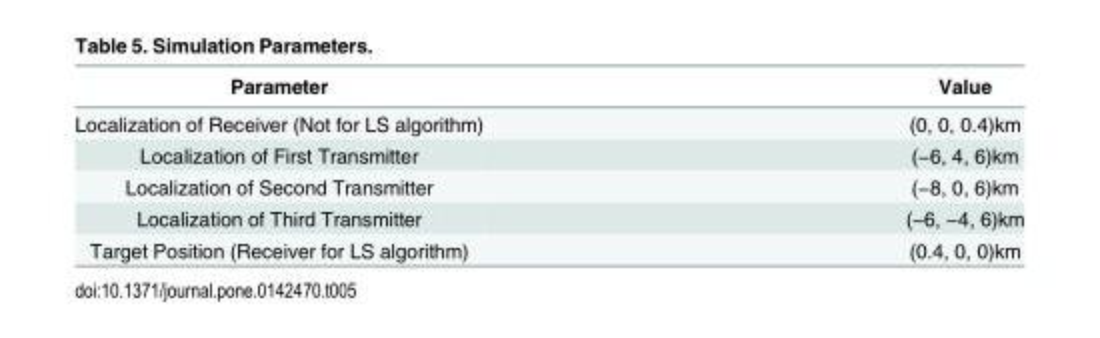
<table><thead><tr><td>Parameter</td><td>Value</td></tr></thead><tbody><tr><td>Localization of Receiver (Not for LS algorithm)</td><td>(0, 0, 0.4)km</td></tr><tr><td>Localization of First Transmitter</td><td>(−6, 4, 6)km</td></tr><tr><td>Localization of Second Transmitter</td><td>(−8, 0, 6)km</td></tr><tr><td>Localization of Third Transmitter</td><td>(−6, −4, 6)km</td></tr><tr><td>Target Position (Receiver for LS algorithm)</td><td>(0.4, 0, 0)km</td></tr></tbody></table>